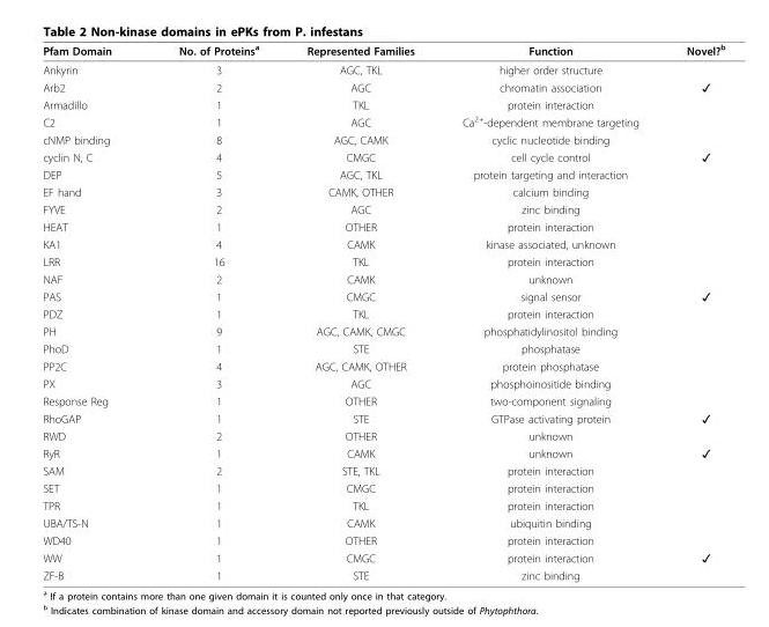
<table><thead><tr><td>Pfam Domain</td><td>No. of Proteins<sup>a</sup></td><td>Represented Families</td><td>Function</td><td>Novel?<sup>b</sup></td></tr></thead><tbody><tr><td>Ankyrin</td><td>3</td><td>AGC, TKL</td><td>higher order structure</td><td></td></tr><tr><td>Arb2</td><td>2</td><td>AGC</td><td>chromatin association</td><td>✓</td></tr><tr><td>Armadillo</td><td>1</td><td>TKL</td><td>protein interaction</td><td></td></tr><tr><td>C2</td><td>1</td><td>AGC</td><td>Ca<sup>2+</sup>-dependent membrane targeting</td><td></td></tr><tr><td>cNMP binding</td><td>8</td><td>AGC, CAMK</td><td>cyclic nucleotide binding</td><td></td></tr><tr><td>cyclin N, C</td><td>4</td><td>CMGC</td><td>cell cycle control</td><td>✓</td></tr><tr><td>DEP</td><td>5</td><td>AGC, TKL</td><td>protein targeting and interaction</td><td></td></tr><tr><td>EF hand</td><td>3</td><td>CAMK, OTHER</td><td>calcium binding</td><td></td></tr><tr><td>FYVE</td><td>2</td><td>AGC</td><td>zinc binding</td><td></td></tr><tr><td>HEAT</td><td>1</td><td>OTHER</td><td>protein interaction</td><td></td></tr><tr><td>KA1</td><td>4</td><td>CAMK</td><td>kinase associated, unknown</td><td></td></tr><tr><td>LRR</td><td>16</td><td>TKL</td><td>protein interaction</td><td></td></tr><tr><td>NAF</td><td>2</td><td>CAMK</td><td>unknown</td><td></td></tr><tr><td>PAS</td><td>1</td><td>CMGC</td><td>signal sensor</td><td>✓</td></tr><tr><td>PDZ</td><td>1</td><td>TKL</td><td>protein interaction</td><td></td></tr><tr><td>PH</td><td>9</td><td>AGC, CAMK, CMGC</td><td>phosphatidylinositol binding</td><td></td></tr><tr><td>PhoD</td><td>1</td><td>STE</td><td>phosphatase</td><td></td></tr><tr><td>PP2C</td><td>4</td><td>AGC, CAMK, OTHER</td><td>protein phosphatase</td><td></td></tr><tr><td>PX</td><td>3</td><td>AGC</td><td>phosphoinositide binding</td><td></td></tr><tr><td>Response Reg</td><td>1</td><td>OTHER</td><td>two-component signaling</td><td></td></tr><tr><td>RhoGAP</td><td>1</td><td>STE</td><td>GTPase activating protein</td><td>✓</td></tr><tr><td>RWD</td><td>2</td><td>OTHER</td><td>unknown</td><td></td></tr><tr><td>RyR</td><td>1</td><td>CAMK</td><td>unknown</td><td>✓</td></tr><tr><td>SAM</td><td>2</td><td>STE, TKL</td><td>protein interaction</td><td></td></tr><tr><td>SET</td><td>1</td><td>CMGC</td><td>protein interaction</td><td></td></tr><tr><td>TPR</td><td>1</td><td>TKL</td><td>protein interaction</td><td></td></tr><tr><td>UBA/TS-N</td><td>1</td><td>CAMK</td><td>ubiquitin binding</td><td></td></tr><tr><td>WD40</td><td>1</td><td>OTHER</td><td>protein interaction</td><td></td></tr><tr><td>WW</td><td>1</td><td>CMGC</td><td>protein interaction</td><td>✓</td></tr><tr><td>ZF-B</td><td>1</td><td>STE</td><td>zinc binding</td><td></td></tr></tbody></table>